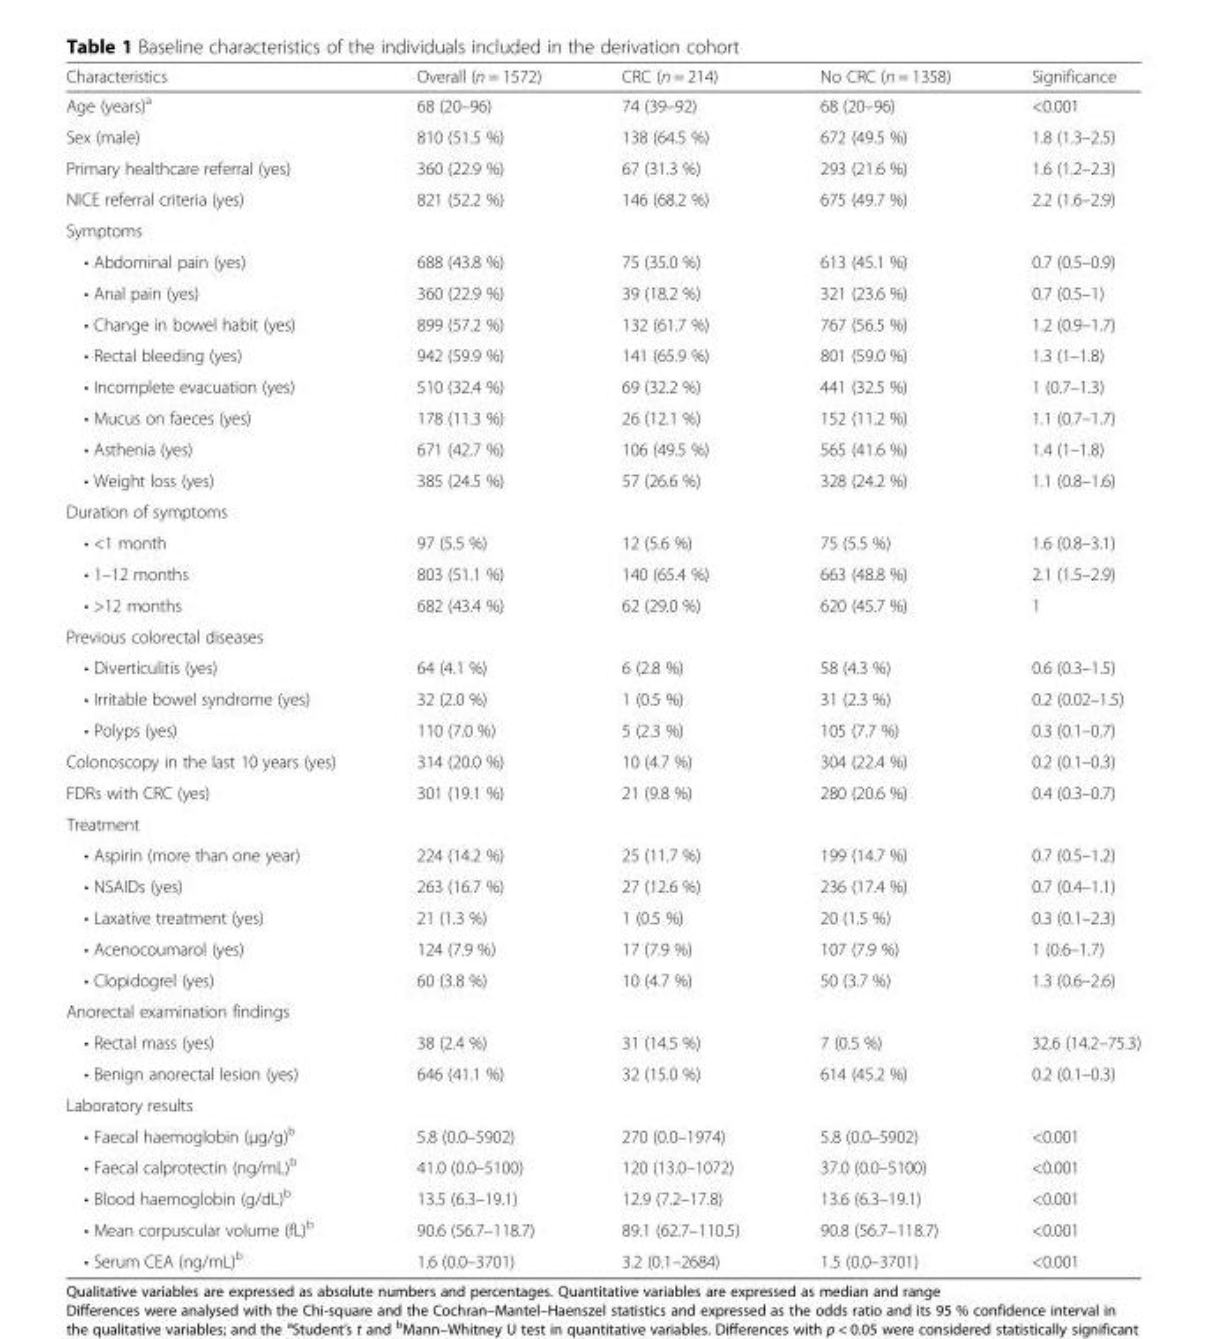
<table><thead><tr><td>Characteristics</td><td>Overall (n = 1572)</td><td>CRC (n = 214)</td><td>No CRC (n = 1358)</td><td>Significance</td></tr></thead><tbody><tr><td>Age (years)<sup>a</sup></td><td>68 (20–96)</td><td>74 (39–92)</td><td>68 (20–96)</td><td>&lt;0.001</td></tr><tr><td>Sex (male)</td><td>810 (51.5 %)</td><td>138 (64.5 %)</td><td>672 (49.5 %)</td><td>1.8 (1.3–2.5)</td></tr><tr><td>Primary healthcare referral (yes)</td><td>360 (22.9 %)</td><td>67 (31.3 %)</td><td>293 (21.6 %)</td><td>1.6 (1.2–2.3)</td></tr><tr><td>NICE referral criteria (yes)</td><td>821 (52.2 %)</td><td>146 (68.2 %)</td><td>675 (49.7 %)</td><td>2.2 (1.6–2.9)</td></tr><tr><td colspan="5">Symptoms</td></tr><tr><td>• Abdominal pain (yes)</td><td>688 (43.8 %)</td><td>75 (35.0 %)</td><td>613 (45.1 %)</td><td>0.7 (0.5–0.9)</td></tr><tr><td>• Anal pain (yes)</td><td>360 (22.9 %)</td><td>39 (18.2 %)</td><td>321 (23.6 %)</td><td>0.7 (0.5–1)</td></tr><tr><td>• Change in bowel habit (yes)</td><td>899 (57.2 %)</td><td>132 (61.7 %)</td><td>767 (56.5 %)</td><td>1.2 (0.9–1.7)</td></tr><tr><td>• Rectal bleeding (yes)</td><td>942 (59.9 %)</td><td>141 (65.9 %)</td><td>801 (59.0 %)</td><td>1.3 (1–1.8)</td></tr><tr><td>• Incomplete evacuation (yes)</td><td>510 (32.4 %)</td><td>69 (32.2 %)</td><td>441 (32.5 %)</td><td>1 (0.7–1.3)</td></tr><tr><td>• Mucus on faeces (yes)</td><td>178 (11.3 %)</td><td>26 (12.1 %)</td><td>152 (11.2 %)</td><td>1.1 (0.7–1.7)</td></tr><tr><td>• Asthenia (yes)</td><td>671 (42.7 %)</td><td>106 (49.5 %)</td><td>565 (41.6 %)</td><td>1.4 (1–1.8)</td></tr><tr><td>• Weight loss (yes)</td><td>385 (24.5 %)</td><td>57 (26.6 %)</td><td>328 (24.2 %)</td><td>1.1 (0.8–1.6)</td></tr><tr><td colspan="5">Duration of symptoms</td></tr><tr><td>• &lt;1 month</td><td>97 (5.5 %)</td><td>12 (5.6 %)</td><td>75 (5.5 %)</td><td>1.6 (0.8–3.1)</td></tr><tr><td>• 1–12 months</td><td>803 (51.1 %)</td><td>140 (65.4 %)</td><td>663 (48.8 %)</td><td>2.1 (1.5–2.9)</td></tr><tr><td>• &gt;12 months</td><td>682 (43.4 %)</td><td>62 (29.0 %)</td><td>620 (45.7 %)</td><td>1</td></tr><tr><td colspan="5">Previous colorectal diseases</td></tr><tr><td>• Diverticulitis (yes)</td><td>64 (4.1 %)</td><td>6 (2.8 %)</td><td>58 (4.3 %)</td><td>0.6 (0.3–1.5)</td></tr><tr><td>• Irritable bowel syndrome (yes)</td><td>32 (2.0 %)</td><td>1 (0.5 %)</td><td>31 (2.3 %)</td><td>0.2 (0.02–1.5)</td></tr><tr><td>• Polyps (yes)</td><td>110 (7.0 %)</td><td>5 (2.3 %)</td><td>105 (7.7 %)</td><td>0.3 (0.1–0.7)</td></tr><tr><td>Colonoscopy in the last 10 years (yes)</td><td>314 (20.0 %)</td><td>10 (4.7 %)</td><td>304 (22.4 %)</td><td>0.2 (0.1–0.3)</td></tr><tr><td>FDRs with CRC (yes)</td><td>301 (19.1 %)</td><td>21 (9.8 %)</td><td>280 (20.6 %)</td><td>0.4 (0.3–0.7)</td></tr><tr><td colspan="5">Treatment</td></tr><tr><td>• Aspirin (more than one year)</td><td>224 (14.2 %)</td><td>25 (11.7 %)</td><td>199 (14.7 %)</td><td>0.7 (0.5–1.2)</td></tr><tr><td>• NSAIDs (yes)</td><td>263 (16.7 %)</td><td>27 (12.6 %)</td><td>236 (17.4 %)</td><td>0.7 (0.4–1.1)</td></tr><tr><td>• Laxative treatment (yes)</td><td>21 (1.3 %)</td><td>1 (0.5 %)</td><td>20 (1.5 %)</td><td>0.3 (0.1–2.3)</td></tr><tr><td>• Acenocoumarol (yes)</td><td>124 (7.9 %)</td><td>17 (7.9 %)</td><td>107 (7.9 %)</td><td>1 (0.6–1.7)</td></tr><tr><td>• Clopidogrel (yes)</td><td>60 (3.8 %)</td><td>10 (4.7 %)</td><td>50 (3.7 %)</td><td>1.3 (0.6–2.6)</td></tr><tr><td colspan="5">Anorectal examination findings</td></tr><tr><td>• Rectal mass (yes)</td><td>38 (2.4 %)</td><td>31 (14.5 %)</td><td>7 (0.5 %)</td><td>32.6 (14.2–75.3)</td></tr><tr><td>• Benign anorectal lesion (yes)</td><td>646 (41.1 %)</td><td>32 (15.0 %)</td><td>614 (45.2 %)</td><td>0.2 (0.1–0.3)</td></tr><tr><td colspan="5">Laboratory results</td></tr><tr><td>• Faecal haemoglobin (μg/g)<sup>b</sup></td><td>5.8 (0.0–5902)</td><td>270 (0.0–1974)</td><td>5.8 (0.0–5902)</td><td>&lt;0.001</td></tr><tr><td>• Faecal calprotectin (ng/mL)<sup>b</sup></td><td>41.0 (0.0–5100)</td><td>120 (13.0–1072)</td><td>37.0 (0.0–5100)</td><td>&lt;0.001</td></tr><tr><td>• Blood haemoglobin (g/dL)<sup>b</sup></td><td>13.5 (6.3–19.1)</td><td>12.9 (7.2–17.8)</td><td>13.6 (6.3–19.1)</td><td>&lt;0.001</td></tr><tr><td>• Mean corpuscular volume (fL)<sup>b</sup></td><td>90.6 (56.7–118.7)</td><td>89.1 (62.7–110.5)</td><td>90.8 (56.7–118.7)</td><td>&lt;0.001</td></tr><tr><td>• Serum CEA (ng/mL)<sup>b</sup></td><td>1.6 (0.0–3701)</td><td>3.2 (0.1–2684)</td><td>1.5 (0.0–3701)</td><td>&lt;0.001</td></tr></tbody></table>